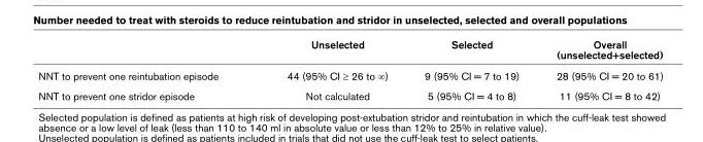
<table><thead><tr><td></td><td>Unselected</td><td>Selected</td><td>Overall (unselected+selected)</td></tr></thead><tbody><tr><td>NNT to prevent one reintubation episode</td><td>44 (95% CI ≥ 26 to ∞)</td><td>9 (95% CI = 7 to 19)</td><td>28 (95% CI = 20 to 61)</td></tr><tr><td>NNT to prevent one stridor episode</td><td>Not calculated</td><td>5 (95% CI = 4 to 8)</td><td>11 (95% CI = 8 to 42)</td></tr></tbody></table>